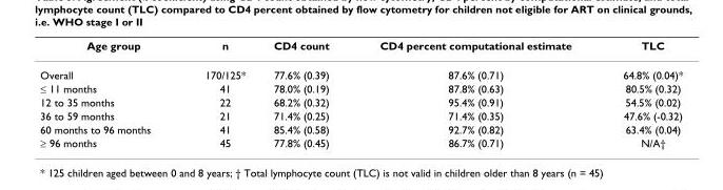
<table><thead><tr><td>Age group</td><td>n</td><td>CD4 count</td><td>CD4 percent computational estimate</td><td>TLC</td></tr></thead><tbody><tr><td>Overall</td><td>170/125*</td><td>77.6% (0.39)</td><td>87.6% (0.71)</td><td>64.8% (0.04)*</td></tr><tr><td>≤ 11 months</td><td>41</td><td>78.0% (0.19)</td><td>87.8% (0.63)</td><td>80.5% (0.32)</td></tr><tr><td>12 to 35 months</td><td>22</td><td>68.2% (0.32)</td><td>95.4% (0.91)</td><td>54.5% (0.02)</td></tr><tr><td>36 to 59 months</td><td>21</td><td>71.4% (0.25)</td><td>71.4% (0.35)</td><td>47.6% (-0.32)</td></tr><tr><td>60 months to 96 months</td><td>41</td><td>85.4% (0.58)</td><td>92.7% (0.82)</td><td>63.4% (0.04)</td></tr><tr><td>≥ 96 months</td><td>45</td><td>77.8% (0.45)</td><td>86.7% (0.71)</td><td>N/A†</td></tr></tbody></table>